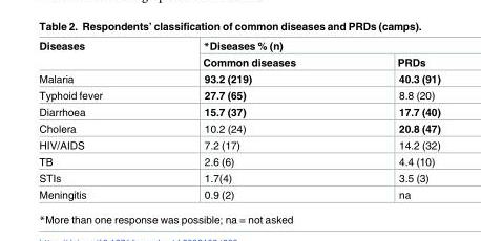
<table><thead><tr><td rowspan="2">Diseases</td><td colspan="2">*Diseases % (n)</td></tr><tr><td>Common diseases</td><td>PRDs</td></tr></thead><tbody><tr><td>Malaria</td><td>93.2 (219)</td><td>40.3 (91)</td></tr><tr><td>Typhoid fever</td><td>27.7 (65)</td><td>8.8 (20)</td></tr><tr><td>Diarrhoea</td><td>15.7 (37)</td><td>17.7 (40)</td></tr><tr><td>Cholera</td><td>10.2 (24)</td><td>20.8 (47)</td></tr><tr><td>HIV/AIDS</td><td>7.2 (17)</td><td>14.2 (32)</td></tr><tr><td>TB</td><td>2.6 (6)</td><td>4.4 (10)</td></tr><tr><td>STIs</td><td>1.7(4)</td><td>3.5 (3)</td></tr><tr><td>Meningitis</td><td>0.9 (2)</td><td>na</td></tr></tbody></table>